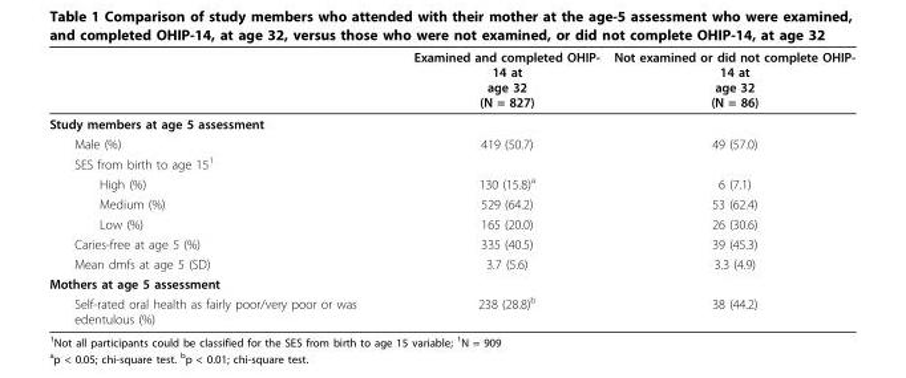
<table><thead><tr><td></td><td>Examined and completed OHIP- 14 at age 32 (N = 827)</td><td>Not examined or did not complete OHIP- 14 at age 32 (N = 86)</td></tr></thead><tbody><tr><td colspan="3">Study members at age 5 assessment</td></tr><tr><td>Male (%)</td><td>419 (50.7)</td><td>49 (57.0)</td></tr><tr><td colspan="3">SES from birth to age 15<sup>1</sup></td></tr><tr><td>High (%)</td><td>130 (15.8)<sup>a</sup></td><td>6 (7.1)</td></tr><tr><td>Medium (%)</td><td>529 (64.2)</td><td>53 (62.4)</td></tr><tr><td>Low (%)</td><td>165 (20.0)</td><td>26 (30.6)</td></tr><tr><td>Caries-free at age 5 (%)</td><td>335 (40.5)</td><td>39 (45.3)</td></tr><tr><td>Mean dmfs at age 5 (SD)</td><td>3.7 (5.6)</td><td>3.3 (4.9)</td></tr><tr><td colspan="3">Mothers at age 5 assessment</td></tr><tr><td>Self-rated oral health as fairly poor/very poor or was edentulous (%)</td><td>238 (28.8)<sup>b</sup></td><td>38 (44.2)</td></tr></tbody></table>